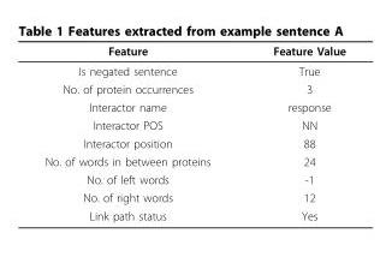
<table><thead><tr><td>Feature</td><td>Feature Value</td></tr></thead><tbody><tr><td>Is negated sentence</td><td>True</td></tr><tr><td>No. of protein occurrences</td><td>3</td></tr><tr><td>Interactor name</td><td>response</td></tr><tr><td>Interactor POS</td><td>NN</td></tr><tr><td>Interactor position</td><td>88</td></tr><tr><td>No. of words in between proteins</td><td>24</td></tr><tr><td>No. of left words</td><td>-1</td></tr><tr><td>No. of right words</td><td>12</td></tr><tr><td>Link path status</td><td>Yes</td></tr></tbody></table>